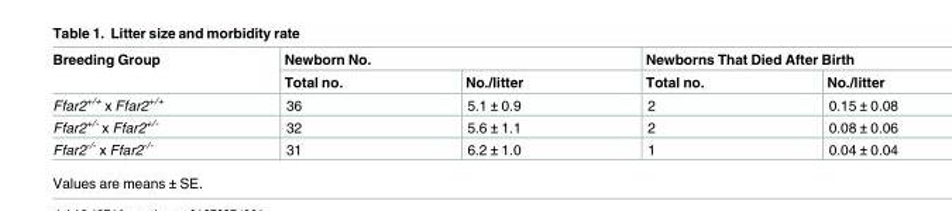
<table><thead><tr><td rowspan="2">Breeding Group</td><td colspan="2">Newborn No.</td><td colspan="2">Newborns That Died After Birth</td></tr><tr><td>Total no.</td><td>No./litter</td><td>Total no.</td><td>No./litter</td></tr></thead><tbody><tr><td>Ffar2<sup>+/+</sup> x Ffar2<sup>+/+</sup></td><td>36</td><td>5.1 ± 0.9</td><td>2</td><td>0.15 ± 0.08</td></tr><tr><td>Ffar2<sup>+/-</sup> x Ffar2<sup>+/-</sup></td><td>32</td><td>5.6 ± 1.1</td><td>2</td><td>0.08 ± 0.06</td></tr><tr><td>Ffar2<sup>-/-</sup> x Ffar2<sup>-/-</sup></td><td>31</td><td>6.2 ± 1.0</td><td>1</td><td>0.04 ± 0.04</td></tr></tbody></table>